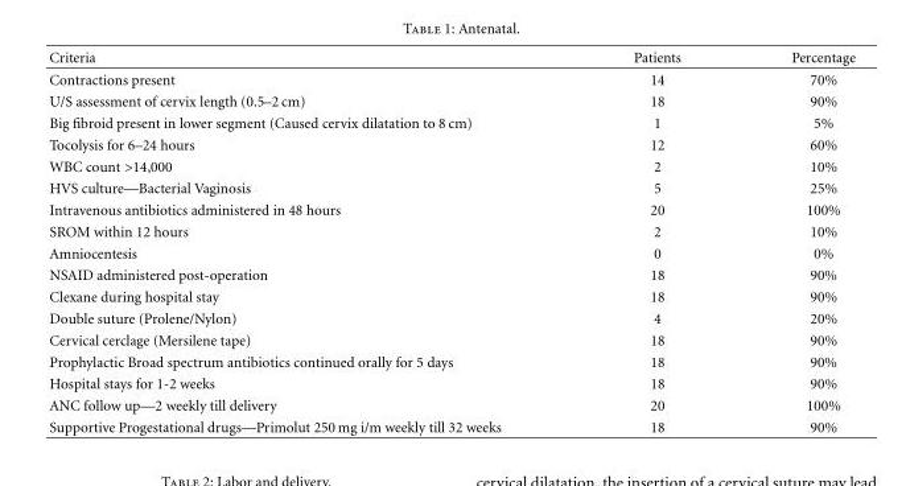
<table><thead><tr><td>Criteria</td><td>Patients</td><td>Percentage</td></tr></thead><tbody><tr><td>Contractions present</td><td>14</td><td>70%</td></tr><tr><td>U/S assessment of cervix length (0.5–2 cm)</td><td>18</td><td>90%</td></tr><tr><td>Big fibroid present in lower segment (Caused cervix dilatation to 8 cm)</td><td>1</td><td>5%</td></tr><tr><td>Tocolysis for 6–24 hours</td><td>12</td><td>60%</td></tr><tr><td>WBC count &gt;14,000</td><td>2</td><td>10%</td></tr><tr><td>HVS culture—Bacterial Vaginosis</td><td>5</td><td>25%</td></tr><tr><td>Intravenous antibiotics administered in 48 hours</td><td>20</td><td>100%</td></tr><tr><td>SROM within 12 hours</td><td>2</td><td>10%</td></tr><tr><td>Amniocentesis</td><td>0</td><td>0%</td></tr><tr><td>NSAID administered post-operation</td><td>18</td><td>90%</td></tr><tr><td>Clexane during hospital stay</td><td>18</td><td>90%</td></tr><tr><td>Double suture (Prolene/Nylon)</td><td>4</td><td>20%</td></tr><tr><td>Cervical cerclage (Mersilene tape)</td><td>18</td><td>90%</td></tr><tr><td>Prophylactic Broad spectrum antibiotics continued orally for 5 days</td><td>18</td><td>90%</td></tr><tr><td>Hospital stays for 1-2 weeks</td><td>18</td><td>90%</td></tr><tr><td>ANC follow up—2 weekly till delivery</td><td>20</td><td>100%</td></tr><tr><td>Supportive Progestational drugs—Primolut 250 mg i/m weekly till 32 weeks</td><td>18</td><td>90%</td></tr></tbody></table>